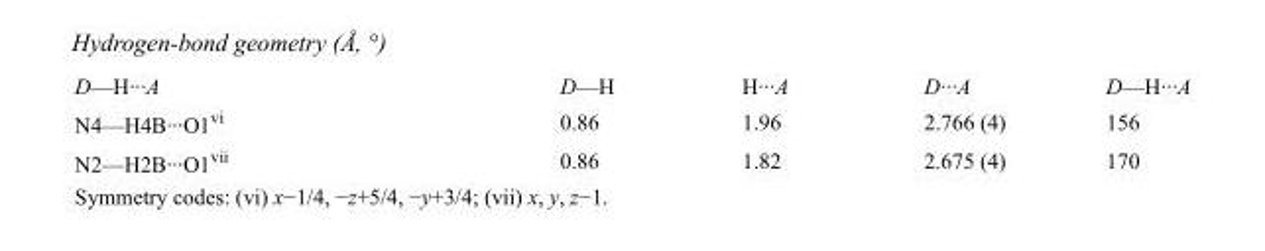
<table><tbody><tr><td>D—H···A</td><td>D—H</td><td>H···A</td><td>D···A</td><td>D—H···A</td></tr><tr><td>N4—H4B···O1<sup>vi</sup></td><td>0.86</td><td>1.96</td><td>2.766 (4)</td><td>156</td></tr><tr><td>N2—H2B···O1<sup>vii</sup></td><td>0.86</td><td>1.82</td><td>2.675 (4)</td><td>170</td></tr></tbody></table>